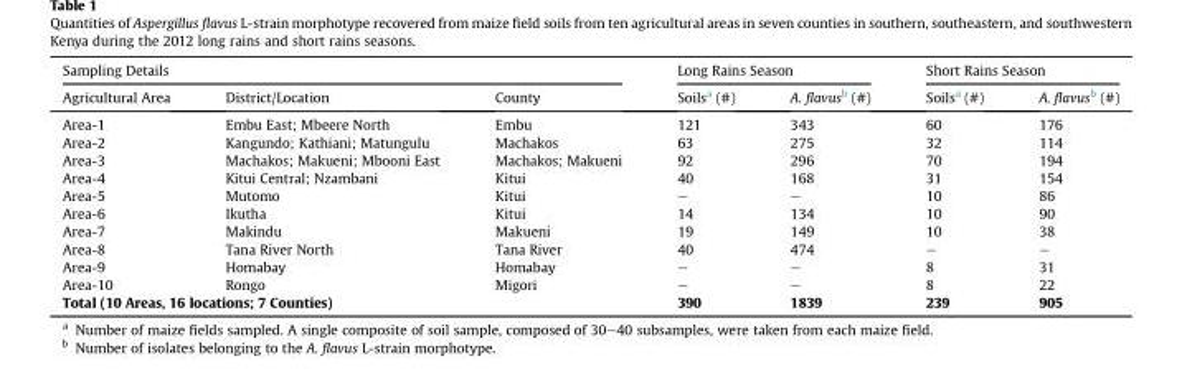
<table><thead><tr><td colspan="3">Sampling Details</td><td colspan="2">Long Rains Season</td><td colspan="2">Short Rains Season</td></tr><tr><td>Agricultural Area</td><td>District/Location</td><td>County</td><td>Soils<sup>a</sup> (#)</td><td>A. flavus<sup>b</sup> (#)</td><td>Soils<sup>a</sup> (#)</td><td>A. flavus<sup>b</sup> (#)</td></tr></thead><tbody><tr><td>Area-1</td><td>Embu East; Mbeere North</td><td>Embu</td><td>121</td><td>343</td><td>60</td><td>176</td></tr><tr><td>Area-2</td><td>Kangundo; Kathiani; Matungulu</td><td>Machakos</td><td>63</td><td>275</td><td>32</td><td>114</td></tr><tr><td>Area-3</td><td>Machakos; Makueni; Mbooni East</td><td>Machakos; Makueni</td><td>92</td><td>296</td><td>70</td><td>194</td></tr><tr><td>Area-4</td><td>Kitui Central; Nzambani</td><td>Kitui</td><td>40</td><td>168</td><td>31</td><td>154</td></tr><tr><td>Area-5</td><td>Mutomo</td><td>Kitui</td><td>–</td><td>–</td><td>10</td><td>86</td></tr><tr><td>Area-6</td><td>Ikutha</td><td>Kitui</td><td>14</td><td>134</td><td>10</td><td>90</td></tr><tr><td>Area-7</td><td>Makindu</td><td>Makueni</td><td>19</td><td>149</td><td>10</td><td>38</td></tr><tr><td>Area-8</td><td>Tana River North</td><td>Tana River</td><td>40</td><td>474</td><td>–</td><td>–</td></tr><tr><td>Area-9</td><td>Homabay</td><td>Homabay</td><td>–</td><td>–</td><td>8</td><td>31</td></tr><tr><td>Area-10</td><td>Rongo</td><td>Migori</td><td>–</td><td>–</td><td>8</td><td>22</td></tr><tr><td colspan="3">Total (10 Areas, 16 locations; 7 Counties)</td><td>390</td><td>1839</td><td>239</td><td>905</td></tr></tbody></table>